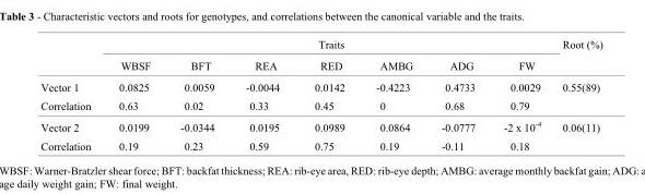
<table><thead><tr><td rowspan="2"></td><td colspan="7">Traits</td><td rowspan="2">Root (%)</td></tr><tr><td>WBSF</td><td>BFT</td><td>REA</td><td>RED</td><td>AMBG</td><td>ADG</td><td>FW</td></tr></thead><tbody><tr><td>Vector 1</td><td>0.0825</td><td>0.0059</td><td>-0.0044</td><td>0.0142</td><td>-0.4223</td><td>0.4733</td><td>0.0029</td><td>0.55(89)</td></tr><tr><td>Correlation</td><td>0.63</td><td>0.02</td><td>0.33</td><td>0.45</td><td>0</td><td>0.68</td><td>0.79</td><td></td></tr><tr><td>Vector 2</td><td>0.0199</td><td>-0.0344</td><td>0.0195</td><td>0.0989</td><td>0.0864</td><td>-0.0777</td><td>-2 x 10<sup>-4</sup></td><td>0.06(11)</td></tr><tr><td>Correlation</td><td>0.19</td><td>0.23</td><td>0.59</td><td>0.75</td><td>0.19</td><td>-0.11</td><td>0.18</td><td></td></tr></tbody></table>